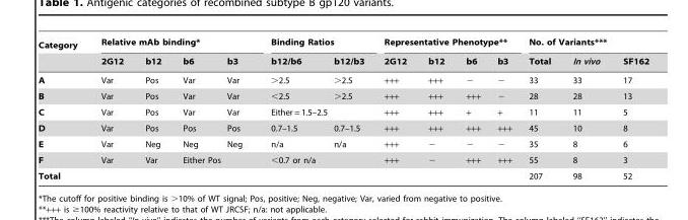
<table><thead><tr><td rowspan="2">Category</td><td colspan="4">Relative mAb binding*</td><td colspan="2">Binding Ratios</td><td colspan="4">Representative Phenotype**</td><td colspan="3">No. of Variants***</td></tr><tr><td>2G12</td><td>b12</td><td>b6</td><td>b3</td><td>b12/b6</td><td>b12/b3</td><td>2G12</td><td>b12</td><td>b6</td><td>b3</td><td>Total</td><td>In vivo</td><td>SF162</td></tr></thead><tbody><tr><td>A</td><td>Var</td><td>Pos</td><td>Var</td><td>Var</td><td>&gt;2.5</td><td>&gt;2.5</td><td>+++</td><td>+++</td><td>−</td><td>−</td><td>33</td><td>33</td><td>17</td></tr><tr><td>B</td><td>Var</td><td>Pos</td><td>Var</td><td>Var</td><td>&lt;2.5</td><td>&gt;2.5</td><td>+++</td><td>+++</td><td>+++</td><td>−</td><td>28</td><td>28</td><td>13</td></tr><tr><td>C</td><td>Var</td><td>Pos</td><td>Var</td><td>Var</td><td colspan="2">Either = 1.5–2.5</td><td>+++</td><td>+++</td><td>+</td><td>+</td><td>11</td><td>11</td><td>5</td></tr><tr><td>D</td><td>Var</td><td>Pos</td><td>Pos</td><td>Pos</td><td>0.7–1.5</td><td>0.7–1.5</td><td>+++</td><td>+++</td><td>+++</td><td>+++</td><td>45</td><td>10</td><td>8</td></tr><tr><td>E</td><td>Var</td><td>Neg</td><td>Neg</td><td>Neg</td><td>n/a</td><td>n/a</td><td>+++</td><td>−</td><td>−</td><td>−</td><td>35</td><td>8</td><td>6</td></tr><tr><td>F</td><td>Var</td><td>Var</td><td colspan="2">Either Pos</td><td colspan="2">&lt;0.7 or n/a</td><td>+++</td><td>−</td><td>+++</td><td>+++</td><td>55</td><td>8</td><td>3</td></tr><tr><td>Total</td><td></td><td></td><td colspan="2"></td><td colspan="2"></td><td></td><td></td><td></td><td></td><td>207</td><td>98</td><td>52</td></tr></tbody></table>